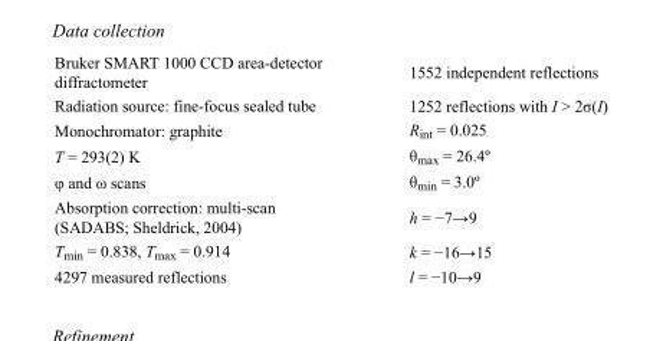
<table><tbody><tr><td>Bruker SMART 1000 CCD area-detector diffractometer</td><td>1552 independent reflections</td></tr><tr><td>Radiation source: fine-focus sealed tube</td><td>1252 reflections with I &gt; 2σ(I)</td></tr><tr><td>Monochromator: graphite</td><td>R<sub>int</sub> = 0.025</td></tr><tr><td>T = 293(2) K</td><td>θ<sub>max</sub> = 26.4º</td></tr><tr><td>φ and ω scans</td><td>θ<sub>min</sub> = 3.0º</td></tr><tr><td>Absorption correction: multi-scan (SADABS; Sheldrick, 2004)</td><td>h = −7→9</td></tr><tr><td>T<sub>min</sub> = 0.838, T<sub>max</sub> = 0.914</td><td>k = −16→15</td></tr><tr><td>4297 measured reflections</td><td>l = −10→9</td></tr></tbody></table>